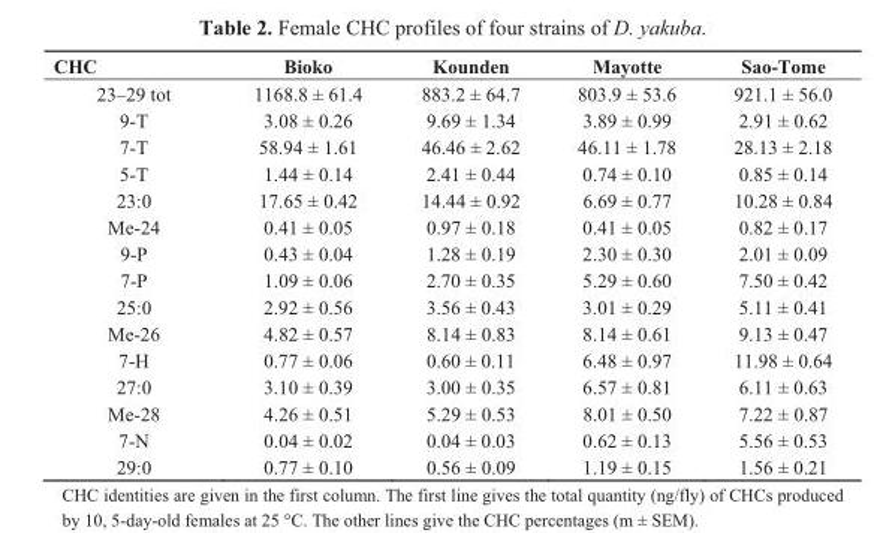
<table><thead><tr><td>CHC</td><td>Bioko</td><td>Kounden</td><td>Mayotte</td><td>Sao-Tome</td></tr></thead><tbody><tr><td>23–29 tot</td><td>1168.8 ± 61.4</td><td>883.2 ± 64.7</td><td>803.9 ± 53.6</td><td>921.1 ± 56.0</td></tr><tr><td>9-T</td><td>3.08 ± 0.26</td><td>9.69 ± 1.34</td><td>3.89 ± 0.99</td><td>2.91 ± 0.62</td></tr><tr><td>7-T</td><td>58.94 ± 1.61</td><td>46.46 ± 2.62</td><td>46.11 ± 1.78</td><td>28.13 ± 2.18</td></tr><tr><td>5-T</td><td>1.44 ± 0.14</td><td>2.41 ± 0.44</td><td>0.74 ± 0.10</td><td>0.85 ± 0.14</td></tr><tr><td>23:0</td><td>17.65 ± 0.42</td><td>14.44 ± 0.92</td><td>6.69 ± 0.77</td><td>10.28 ± 0.84</td></tr><tr><td>Me-24</td><td>0.41 ± 0.05</td><td>0.97 ± 0.18</td><td>0.41 ± 0.05</td><td>0.82 ± 0.17</td></tr><tr><td>9-P</td><td>0.43 ± 0.04</td><td>1.28 ± 0.19</td><td>2.30 ± 0.30</td><td>2.01 ± 0.09</td></tr><tr><td>7-P</td><td>1.09 ± 0.06</td><td>2.70 ± 0.35</td><td>5.29 ± 0.60</td><td>7.50 ± 0.42</td></tr><tr><td>25:0</td><td>2.92 ± 0.56</td><td>3.56 ± 0.43</td><td>3.01 ± 0.29</td><td>5.11 ± 0.41</td></tr><tr><td>Me-26</td><td>4.82 ± 0.57</td><td>8.14 ± 0.83</td><td>8.14 ± 0.61</td><td>9.13 ± 0.47</td></tr><tr><td>7-H</td><td>0.77 ± 0.06</td><td>0.60 ± 0.11</td><td>6.48 ± 0.97</td><td>11.98 ± 0.64</td></tr><tr><td>27:0</td><td>3.10 ± 0.39</td><td>3.00 ± 0.35</td><td>6.57 ± 0.81</td><td>6.11 ± 0.63</td></tr><tr><td>Me-28</td><td>4.26 ± 0.51</td><td>5.29 ± 0.53</td><td>8.01 ± 0.50</td><td>7.22 ± 0.87</td></tr><tr><td>7-N</td><td>0.04 ± 0.02</td><td>0.04 ± 0.03</td><td>0.62 ± 0.13</td><td>5.56 ± 0.53</td></tr><tr><td>29:0</td><td>0.77 ± 0.10</td><td>0.56 ± 0.09</td><td>1.19 ± 0.15</td><td>1.56 ± 0.21</td></tr></tbody></table>